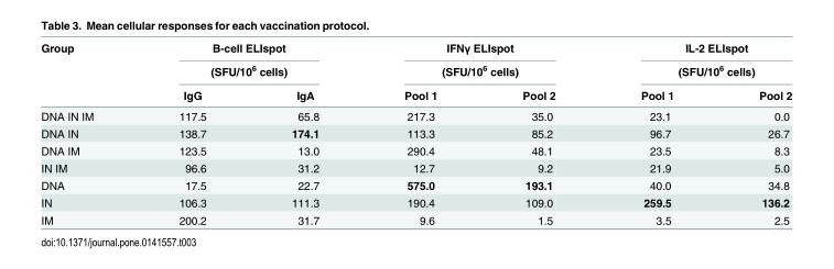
<table><thead><tr><td rowspan="3">Group</td><td rowspan="2" colspan="2">B-cell ELIspot (SFU/10<sup>6</sup> cells)</td><td rowspan="2" colspan="2">IFNγ ELIspot (SFU/10<sup>6</sup> cells)</td><td rowspan="2" colspan="2">IL-2 ELIspot (SFU/10<sup>6</sup> cells)</td></tr><tr></tr><tr><td>IgG</td><td>IgA</td><td>Pool 1</td><td>Pool 2</td><td>Pool 1</td><td>Pool 2</td></tr></thead><tbody><tr><td>DNA IN IM</td><td>117.5</td><td>65.8</td><td>217.3</td><td>35.0</td><td>23.1</td><td>0.0</td></tr><tr><td>DNA IN</td><td>138.7</td><td>174.1</td><td>113.3</td><td>85.2</td><td>96.7</td><td>26.7</td></tr><tr><td>DNA IM</td><td>123.5</td><td>13.0</td><td>290.4</td><td>48.1</td><td>23.5</td><td>8.3</td></tr><tr><td>IN IM</td><td>96.6</td><td>31.2</td><td>12.7</td><td>9.2</td><td>21.9</td><td>5.0</td></tr><tr><td>DNA</td><td>17.5</td><td>22.7</td><td>575.0</td><td>193.1</td><td>40.0</td><td>34.8</td></tr><tr><td>IN</td><td>106.3</td><td>111.3</td><td>190.4</td><td>109.0</td><td>259.5</td><td>136.2</td></tr><tr><td>IM</td><td>200.2</td><td>31.7</td><td>9.6</td><td>1.5</td><td>3.5</td><td>2.5</td></tr></tbody></table>